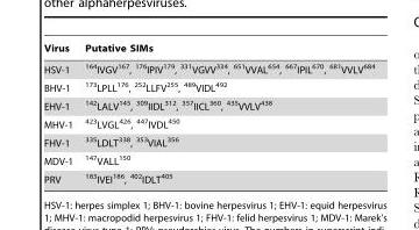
<table><thead><tr><td>Virus</td><td>Putative SIMs</td></tr></thead><tbody><tr><td>HSV-1</td><td><sup>164</sup>IVGV<sup>167</sup>, <sup>176</sup>IPIV<sup>179</sup>, <sup>331</sup>VGVV<sup>334</sup>, <sup>651</sup>VVAL<sup>654</sup>, <sup>667</sup>IPIL<sup>670</sup>, <sup>681</sup>VVLV<sup>684</sup></td></tr><tr><td>BHV-1</td><td><sup>173</sup>LPLL<sup>176</sup>, <sup>252</sup>LLFV<sup>255</sup>, <sup>489</sup>VIDL<sup>492</sup></td></tr><tr><td>EHV-1</td><td><sup>142</sup>LALV<sup>145</sup>, <sup>309</sup>IIDL<sup>312</sup>, <sup>357</sup>IICL<sup>360</sup>, <sup>435</sup>VVLV<sup>438</sup></td></tr><tr><td>MHV-1</td><td><sup>423</sup>LVGL<sup>426</sup>, <sup>447</sup>IVDL<sup>450</sup></td></tr><tr><td>FHV-1</td><td><sup>335</sup>LDLT<sup>338</sup>, <sup>353</sup>VIAL<sup>356</sup></td></tr><tr><td>MDV-1</td><td><sup>147</sup>VALL<sup>150</sup></td></tr><tr><td>PRV</td><td><sup>183</sup>IVEI<sup>186</sup>, <sup>402</sup>IDLT<sup>405</sup></td></tr></tbody></table>